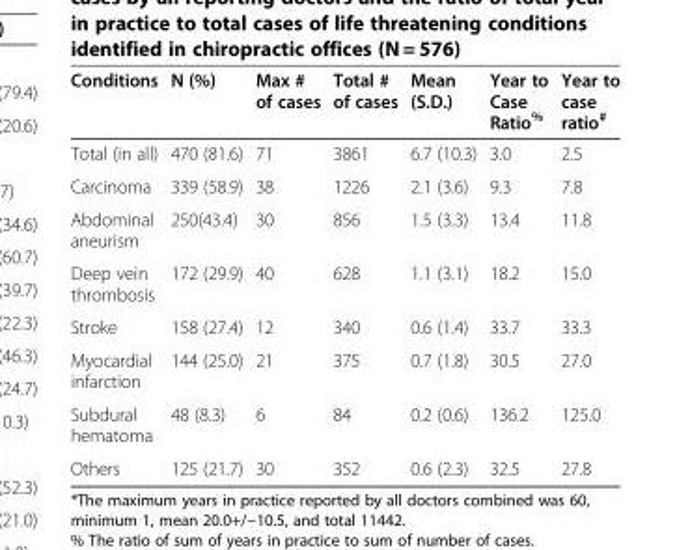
<table><thead><tr><td>Conditions</td><td>N (%)</td><td>Max # of cases</td><td>Total # of cases</td><td>Mean (S.D.)</td><td>Year to Case Ratio<sup>%</sup></td><td>Year to case ratio<sup>#</sup></td></tr></thead><tbody><tr><td>Total (in all)</td><td>470 (81.6)</td><td>71</td><td>3861</td><td>6.7 (10.3)</td><td>3.0</td><td>2.5</td></tr><tr><td>Carcinoma</td><td>339 (58.9)</td><td>38</td><td>1226</td><td>2.1 (3.6)</td><td>9.3</td><td>7.8</td></tr><tr><td>Abdominal aneurism</td><td>250(43.4)</td><td>30</td><td>856</td><td>1.5 (3.3)</td><td>13.4</td><td>11.8</td></tr><tr><td>Deep vein thrombosis</td><td>172 (29.9)</td><td>40</td><td>628</td><td>1.1 (3.1)</td><td>18.2</td><td>15.0</td></tr><tr><td>Stroke</td><td>158 (27.4)</td><td>12</td><td>340</td><td>0.6 (1.4)</td><td>33.7</td><td>33.3</td></tr><tr><td>Myocardial infarction</td><td>144 (25.0)</td><td>21</td><td>375</td><td>0.7 (1.8)</td><td>30.5</td><td>27.0</td></tr><tr><td>Subdural hematoma</td><td>48 (8.3)</td><td>6</td><td>84</td><td>0.2 (0.6)</td><td>136.2</td><td>125.0</td></tr><tr><td>Others</td><td>125 (21.7)</td><td>30</td><td>352</td><td>0.6 (2.3)</td><td>32.5</td><td>27.8</td></tr></tbody></table>